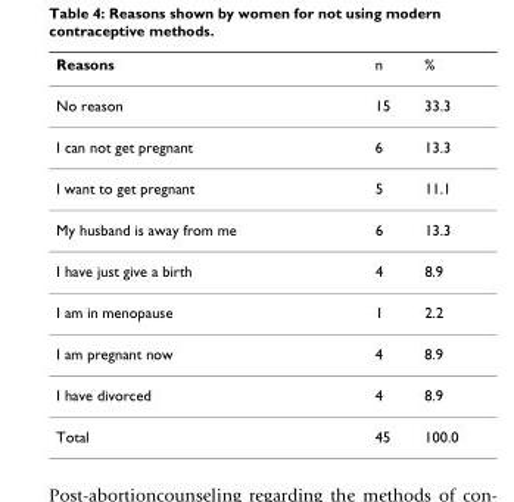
<table><thead><tr><td>Reasons</td><td>n</td><td>%</td></tr></thead><tbody><tr><td>No reason</td><td>15</td><td>33.3</td></tr><tr><td>I can not get pregnant</td><td>6</td><td>13.3</td></tr><tr><td>I want to get pregnant</td><td>5</td><td>11.1</td></tr><tr><td>My husband is away from me</td><td>6</td><td>13.3</td></tr><tr><td>I have just give a birth</td><td>4</td><td>8.9</td></tr><tr><td>I am in menopause</td><td>1</td><td>2.2</td></tr><tr><td>I am pregnant now</td><td>4</td><td>8.9</td></tr><tr><td>I have divorced</td><td>4</td><td>8.9</td></tr><tr><td>Total</td><td>45</td><td>100.0</td></tr></tbody></table>